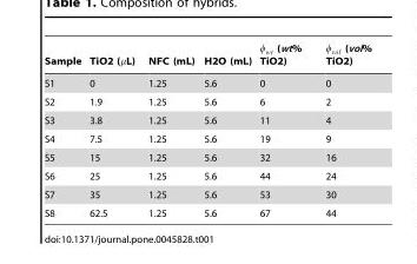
<table><thead><tr><td>Sample</td><td>TiO2 (mL)</td><td>NFC (mL)</td><td>H2O (mL)</td><td>wwt (wt% TiO2)</td><td>wvol (vol% TiO2)</td></tr></thead><tbody><tr><td>S1</td><td>0</td><td>1.25</td><td>5.6</td><td>0</td><td>0</td></tr><tr><td>S2</td><td>1.9</td><td>1.25</td><td>5.6</td><td>6</td><td>2</td></tr><tr><td>S3</td><td>3.8</td><td>1.25</td><td>5.6</td><td>11</td><td>4</td></tr><tr><td>S4</td><td>7.5</td><td>1.25</td><td>5.6</td><td>19</td><td>9</td></tr><tr><td>S5</td><td>15</td><td>1.25</td><td>5.6</td><td>32</td><td>16</td></tr><tr><td>S6</td><td>25</td><td>1.25</td><td>5.6</td><td>44</td><td>24</td></tr><tr><td>S7</td><td>35</td><td>1.25</td><td>5.6</td><td>53</td><td>30</td></tr><tr><td>S8</td><td>62.5</td><td>1.25</td><td>5.6</td><td>67</td><td>44</td></tr></tbody></table>